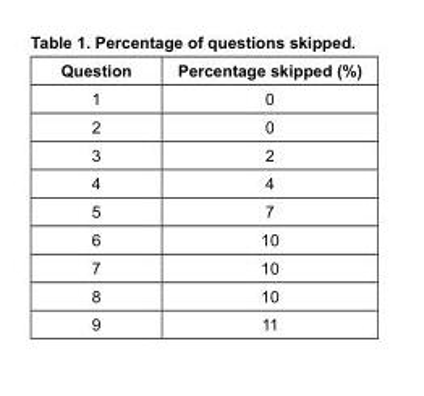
<table><thead><tr><td>Question</td><td>Percentage skipped (%)</td></tr></thead><tbody><tr><td>1</td><td>0</td></tr><tr><td>2</td><td>0</td></tr><tr><td>3</td><td>2</td></tr><tr><td>4</td><td>4</td></tr><tr><td>5</td><td>7</td></tr><tr><td>6</td><td>10</td></tr><tr><td>7</td><td>10</td></tr><tr><td>8</td><td>10</td></tr><tr><td>9</td><td>11</td></tr></tbody></table>